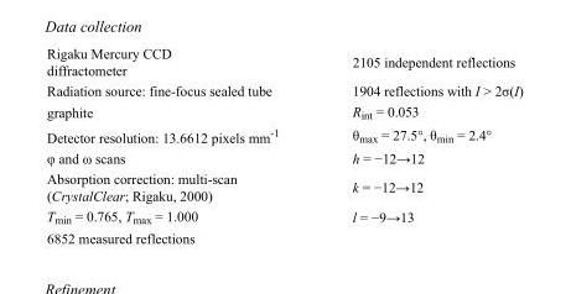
<table><tbody><tr><td>Rigaku Mercury CCD diffractometer</td><td>2105 independent reflections</td></tr><tr><td>Radiation source: fine-focus sealed tube</td><td>1904 reflections with I &gt; 2σ(I)</td></tr><tr><td>graphite</td><td>R<sub>int</sub> = 0.053</td></tr><tr><td>Detector resolution: 13.6612 pixels mm<sup>-1</sup></td><td>θ<sub>max</sub> = 27.5°, θ<sub>min</sub> = 2.4°</td></tr><tr><td>φ and ω scans</td><td>h = −12→12</td></tr><tr><td>Absorption correction: multi-scan (CrystalClear; Rigaku, 2000)</td><td>k = −12→12</td></tr><tr><td>T<sub>min</sub> = 0.765, T<sub>max</sub> = 1.000</td><td>l = −9→13</td></tr><tr><td>6852 measured reflections</td><td></td></tr></tbody></table>